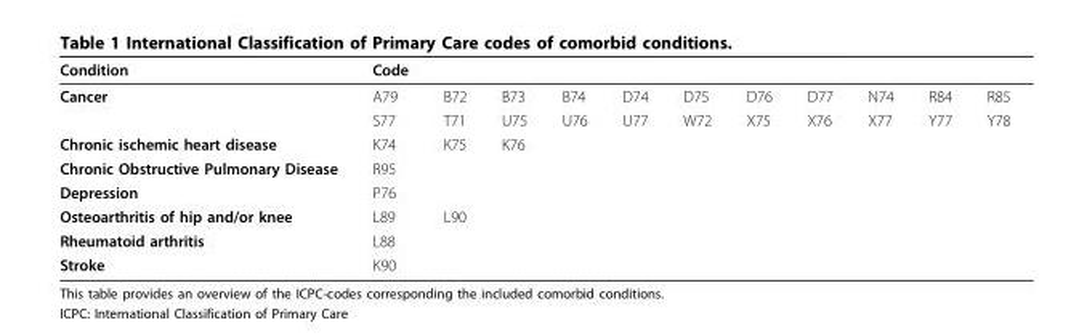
<table><thead><tr><td>Condition</td><td>Code</td><td></td><td></td><td></td><td></td><td></td><td></td><td></td><td></td><td></td><td></td></tr></thead><tbody><tr><td rowspan="2">Cancer</td><td>A79</td><td>B72</td><td>B73</td><td>B74</td><td>D74</td><td>D75</td><td>D76</td><td>D77</td><td>N74</td><td>R84</td><td>R85</td></tr><tr><td>S77</td><td>T71</td><td>U75</td><td>U76</td><td>U77</td><td>W72</td><td>X75</td><td>X76</td><td>X77</td><td>Y77</td><td>Y78</td></tr><tr><td>Chronic ischemic heart disease</td><td>K74</td><td>K75</td><td>K76</td><td></td><td></td><td></td><td></td><td></td><td></td><td></td><td></td></tr><tr><td>Chronic Obstructive Pulmonary Disease</td><td>R95</td><td></td><td></td><td></td><td></td><td></td><td></td><td></td><td></td><td></td><td></td></tr><tr><td>Depression</td><td>P76</td><td></td><td></td><td></td><td></td><td></td><td></td><td></td><td></td><td></td><td></td></tr><tr><td>Osteoarthritis of hip and/or knee</td><td>L89</td><td>L90</td><td></td><td></td><td></td><td></td><td></td><td></td><td></td><td></td><td></td></tr><tr><td>Rheumatoid arthritis</td><td>L88</td><td></td><td></td><td></td><td></td><td></td><td></td><td></td><td></td><td></td><td></td></tr><tr><td>Stroke</td><td>K90</td><td></td><td></td><td></td><td></td><td></td><td></td><td></td><td></td><td></td><td></td></tr></tbody></table>